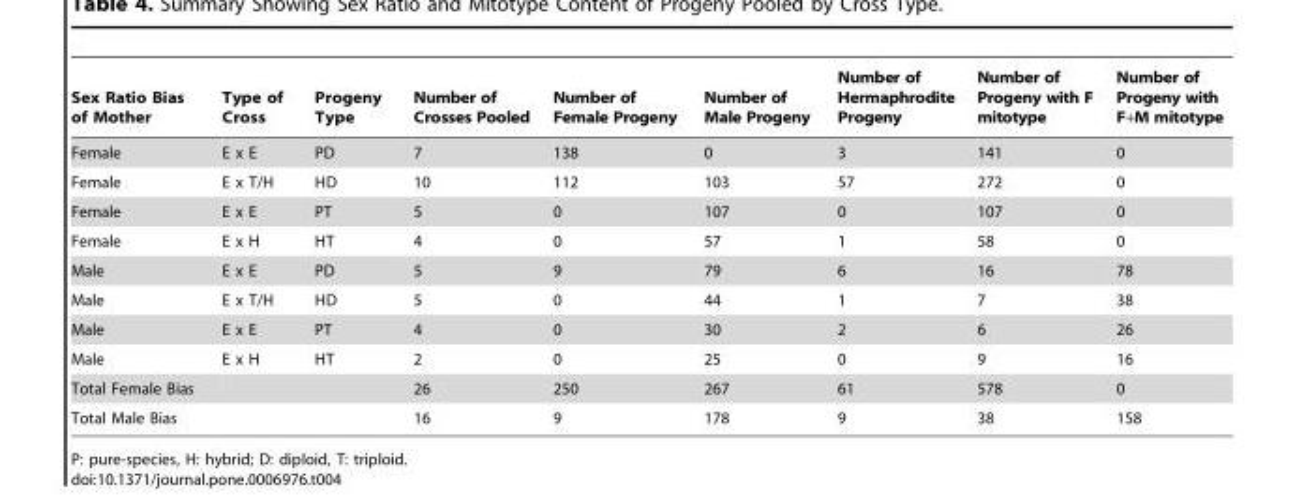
<table><thead><tr><td>Sex Ratio Bias of Mother</td><td>Type of Cross</td><td>Progeny Type</td><td>Number of Crosses Pooled</td><td>Number of Female Progeny</td><td>Number of Male Progeny</td><td>Number of Hermaphrodite Progeny</td><td>Number of Progeny with F mitotype</td><td>Number of Progeny with F+M mitotype</td></tr></thead><tbody><tr><td>Female</td><td>E x E</td><td>PD</td><td>7</td><td>138</td><td>0</td><td>3</td><td>141</td><td>0</td></tr><tr><td>Female</td><td>E x T/H</td><td>HD</td><td>10</td><td>112</td><td>103</td><td>57</td><td>272</td><td>0</td></tr><tr><td>Female</td><td>E x E</td><td>PT</td><td>5</td><td>0</td><td>107</td><td>0</td><td>107</td><td>0</td></tr><tr><td>Female</td><td>E x H</td><td>HT</td><td>4</td><td>0</td><td>57</td><td>1</td><td>58</td><td>0</td></tr><tr><td>Male</td><td>E x E</td><td>PD</td><td>5</td><td>9</td><td>79</td><td>6</td><td>16</td><td>78</td></tr><tr><td>Male</td><td>E x T/H</td><td>HD</td><td>5</td><td>0</td><td>44</td><td>1</td><td>7</td><td>38</td></tr><tr><td>Male</td><td>E x E</td><td>PT</td><td>4</td><td>0</td><td>30</td><td>2</td><td>6</td><td>26</td></tr><tr><td>Male</td><td>E x H</td><td>HT</td><td>2</td><td>0</td><td>25</td><td>0</td><td>9</td><td>16</td></tr><tr><td>Total Female Bias</td><td></td><td></td><td>26</td><td>250</td><td>267</td><td>61</td><td>578</td><td>0</td></tr><tr><td>Total Male Bias</td><td></td><td></td><td>16</td><td>9</td><td>178</td><td>9</td><td>38</td><td>158</td></tr></tbody></table>